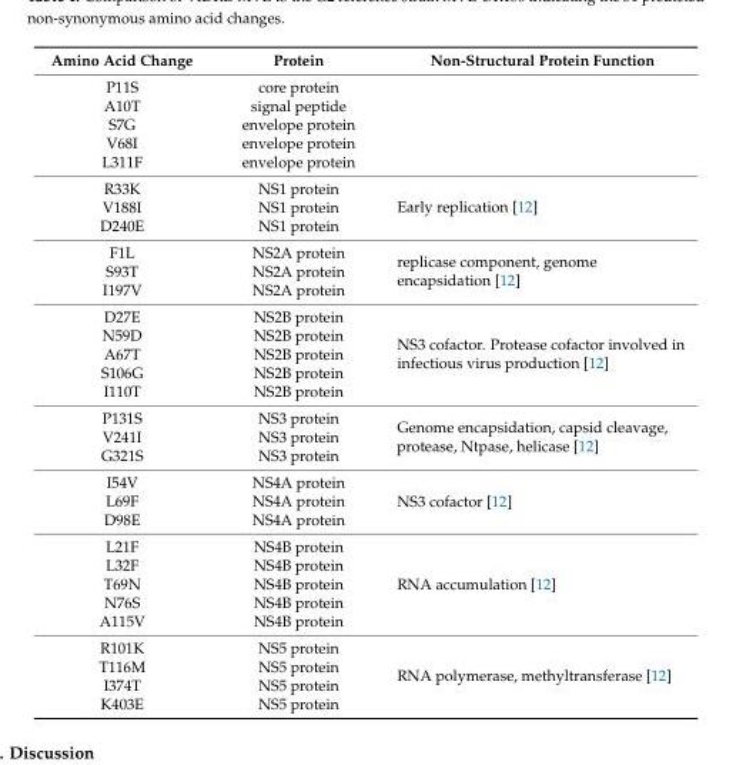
<table><thead><tr><td>Amino Acid Change</td><td>Protein</td><td>Non-Structural Protein Function</td></tr></thead><tbody><tr><td>P11S</td><td>core protein</td><td rowspan="5"></td></tr><tr><td>A10T</td><td>signal peptide</td></tr><tr><td>S7G</td><td>envelope protein</td></tr><tr><td>V68I</td><td>envelope protein</td></tr><tr><td>L311F</td><td>envelope protein</td></tr><tr><td>R33K</td><td>NS1 protein</td><td rowspan="3">Early replication [12]</td></tr><tr><td>V188I</td><td>NS1 protein</td></tr><tr><td>D240E</td><td>NS1 protein</td></tr><tr><td>F1L</td><td>NS2A protein</td><td rowspan="3">replicase component, genome encapsidation [12]</td></tr><tr><td>S93T</td><td>NS2A protein</td></tr><tr><td>I197V</td><td>NS2A protein</td></tr><tr><td>D27E</td><td>NS2B protein</td><td rowspan="5">NS3 cofactor. Protease cofactor involved in infectious virus production [12]</td></tr><tr><td>N59D</td><td>NS2B protein</td></tr><tr><td>A67T</td><td>NS2B protein</td></tr><tr><td>S106G</td><td>NS2B protein</td></tr><tr><td>I110T</td><td>NS2B protein</td></tr><tr><td>P131S</td><td>NS3 protein</td><td rowspan="3">Genome encapsidation, capsid cleavage, protease, Ntpase, helicase [12]</td></tr><tr><td>V241I</td><td>NS3 protein</td></tr><tr><td>G321S</td><td>NS3 protein</td></tr><tr><td>I54V</td><td>NS4A protein</td><td rowspan="3">NS3 cofactor [12]</td></tr><tr><td>L69F</td><td>NS4A protein</td></tr><tr><td>D98E</td><td>NS4A protein</td></tr><tr><td>L21F</td><td>NS4B protein</td><td rowspan="5">RNA accumulation [12]</td></tr><tr><td>L32F</td><td>NS4B protein</td></tr><tr><td>T69N</td><td>NS4B protein</td></tr><tr><td>N76S</td><td>NS4B protein</td></tr><tr><td>A115V</td><td>NS4B protein</td></tr><tr><td>R101K</td><td>NS5 protein</td><td rowspan="4">RNA polymerase, methyltransferase [12]</td></tr><tr><td>T116M</td><td>NS5 protein</td></tr><tr><td>I374T</td><td>NS5 protein</td></tr><tr><td>K403E</td><td>NS5 protein</td></tr></tbody></table>